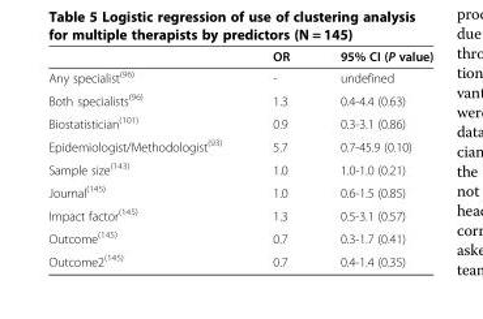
<table><thead><tr><td></td><td>OR</td><td>95% CI (P value)</td></tr></thead><tbody><tr><td>Any specialist<sup>(96)</sup></td><td>-</td><td>undefined</td></tr><tr><td>Both specialists<sup>(96)</sup></td><td>1.3</td><td>0.4-4.4 (0.63)</td></tr><tr><td>Biostatistician<sup>(101)</sup></td><td>0.9</td><td>0.3-3.1 (0.86)</td></tr><tr><td>Epidemiologist/Methodologist<sup>(93)</sup></td><td>5.7</td><td>0.7-45.9 (0.10)</td></tr><tr><td>Sample size<sup>(143)</sup></td><td>1.0</td><td>1.0-1.0 (0.21)</td></tr><tr><td>Journal<sup>(145)</sup></td><td>1.0</td><td>0.6-1.5 (0.85)</td></tr><tr><td>Impact factor<sup>(145)</sup></td><td>1.3</td><td>0.5-3.1 (0.57)</td></tr><tr><td>Outcome<sup>(145)</sup></td><td>0.7</td><td>0.3-1.7 (0.41)</td></tr><tr><td>Outcome2<sup>(145)</sup></td><td>0.7</td><td>0.4-1.4 (0.35)</td></tr></tbody></table>